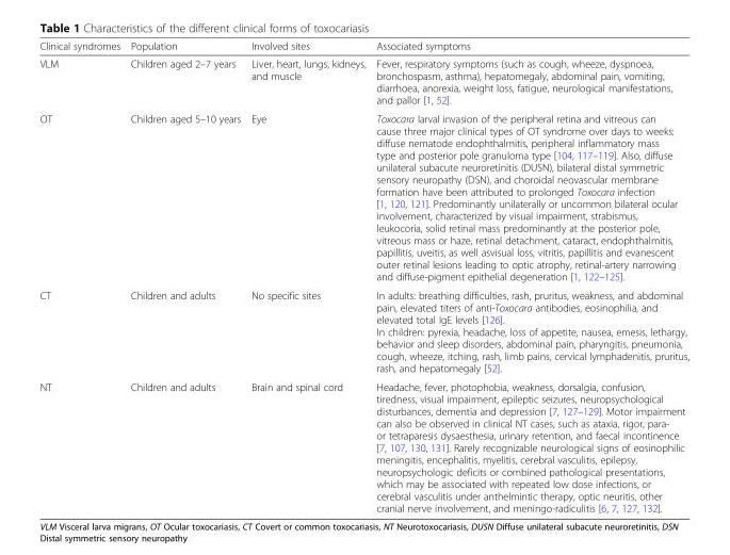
<table><thead><tr><td>Clinical syndromes</td><td>Population</td><td>Involved sites</td><td>Associated symptoms</td></tr></thead><tbody><tr><td>VLM</td><td>Children aged 2–7 years</td><td>Liver, heart, lungs, kidneys, and muscle</td><td>Fever, respiratory symptoms (such as cough, wheeze, dyspnoea, bronchospasm, asthma), hepatomegaly, abdominal pain, vomiting, diarrhoea, anorexia, weight loss, fatigue, neurological manifestations, and pallor [1, 52].</td></tr><tr><td>OT</td><td>Children aged 5–10 years</td><td>Eye</td><td>Toxocara larval invasion of the peripheral retina and vitreous can cause three major clinical types of OT syndrome over days to weeks: diffuse nematode endophthalmitis, peripheral inflammatory mass type and posterior pole granuloma type [104, 117–119]. Also, diffuse unilateral subacute neuroretinitis (DUSN), bilateral distal symmetric sensory neuropathy (DSN), and choroidal neovascular membrane formation have been attributed to prolonged Toxocara infection [1, 120, 121]. Predominantly unilaterally or uncommon bilateral ocular involvement, characterized by visual impairment, strabismus, leukocoria, solid retinal mass predominantly at the posterior pole, vitreous mass or haze, retinal detachment, cataract, endophthalmitis, papillitis, uveitis, as well asvisual loss, vitritis, papillitis and evanescent outer retinal lesions leading to optic atrophy, retinal-artery narrowing and diffuse-pigment epithelial degeneration [1, 122–125].</td></tr><tr><td>CT</td><td>Children and adults</td><td>No specific sites</td><td>In adults: breathing difficulties, rash, pruritus, weakness, and abdominal pain, elevated titers of anti-Toxocara antibodies, eosinophilia, and elevated total IgE levels [126]. In children: pyrexia, headache, loss of appetite, nausea, emesis, lethargy, behavior and sleep disorders, abdominal pain, pharyngitis, pneumonia, cough, wheeze, itching, rash, limb pains, cervical lymphadenitis, pruritus, rash, and hepatomegaly [52].</td></tr><tr><td>NT</td><td>Children and adults</td><td>Brain and spinal cord</td><td>Headache, fever, photophobia, weakness, dorsalgia, confusion, tiredness, visual impairment, epileptic seizures, neuropsychological disturbances, dementia and depression [7, 127–129]. Motor impairment can also be observed in clinical NT cases, such as ataxia, rigor, para- or tetraparesis dysaesthesia, urinary retention, and faecal incontinence [7, 107, 130, 131]. Rarely recognizable neurological signs of eosinophilic meningitis, encephalitis, myelitis, cerebral vasculitis, epilepsy, neuropsychologic deficits or combined pathological presentations, which may be associated with repeated low dose infections, or cerebral vasculitis under anthelmintic therapy, optic neuritis, other cranial nerve involvement, and meningo-radiculitis [6, 7, 127, 132].</td></tr></tbody></table>